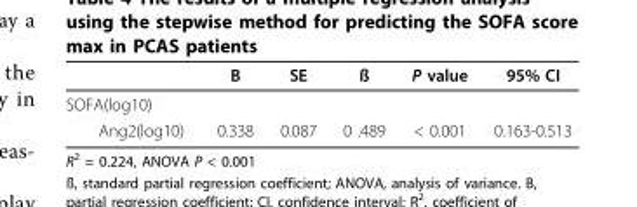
<table><thead><tr><td></td><td>B</td><td>SE</td><td>ß</td><td>P value</td><td>95% CI</td></tr></thead><tbody><tr><td colspan="6">SOFA(log10)</td></tr><tr><td>Ang2(log10)</td><td>0.338</td><td>0.087</td><td>0 .489</td><td>&lt; 0.001</td><td>0.163-0.513</td></tr></tbody></table>